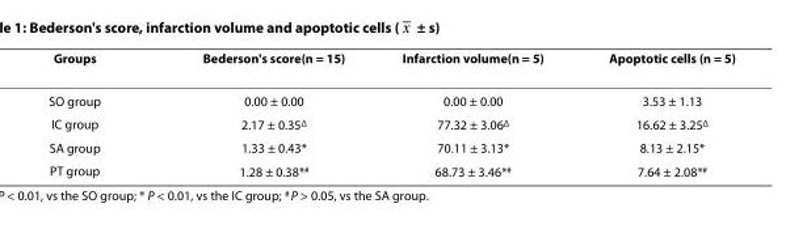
<table><thead><tr><td>Groups</td><td>Bederson&#x27;s score(n = 15)</td><td>Infarction volume(n = 5)</td><td>Apoptotic cells (n = 5)</td></tr></thead><tbody><tr><td>SO group</td><td>0.00 ± 0.00</td><td>0.00 ± 0.00</td><td>3.53 ± 1.13</td></tr><tr><td>IC group</td><td>2.17 ± 0.35<sup>Δ</sup></td><td>77.32 ± 3.06<sup>Δ</sup></td><td>16.62 ± 3.25<sup>Δ</sup></td></tr><tr><td>SA group</td><td>1.33 ± 0.43*</td><td>70.11 ± 3.13*</td><td>8.13 ± 2.15*</td></tr><tr><td>PT group</td><td>1.28 ± 0.38*<sup>#</sup></td><td>68.73 ± 3.46*<sup>#</sup></td><td>7.64 ± 2.08*<sup>#</sup></td></tr></tbody></table>